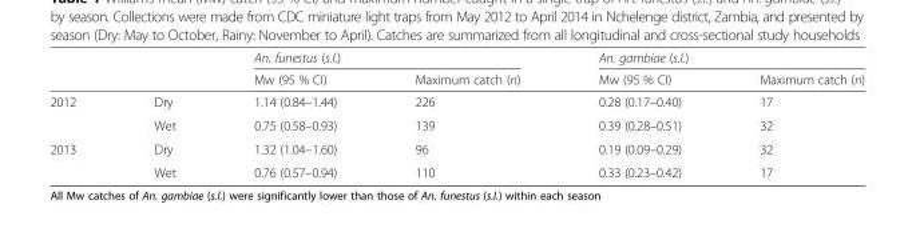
<table><thead><tr><td rowspan="2"></td><td rowspan="2"></td><td colspan="2">An. funestus (s.l.)</td><td colspan="2">An. gambiae (s.l.)</td></tr><tr><td>Mw (95 % CI)</td><td>Maximum catch (n)</td><td>Mw (95 % CI)</td><td>Maximum catch (n)</td></tr></thead><tbody><tr><td rowspan="2">2012</td><td>Dry</td><td>1.14 (0.84–1.44)</td><td>226</td><td>0.28 (0.17–0.40)</td><td>17</td></tr><tr><td>Wet</td><td>0.75 (0.58–0.93)</td><td>139</td><td>0.39 (0.28–0.51)</td><td>32</td></tr><tr><td rowspan="2">2013</td><td>Dry</td><td>1.32 (1.04–1.60)</td><td>96</td><td>0.19 (0.09–0.29)</td><td>32</td></tr><tr><td>Wet</td><td>0.76 (0.57–0.94)</td><td>110</td><td>0.33 (0.23–0.42)</td><td>17</td></tr></tbody></table>